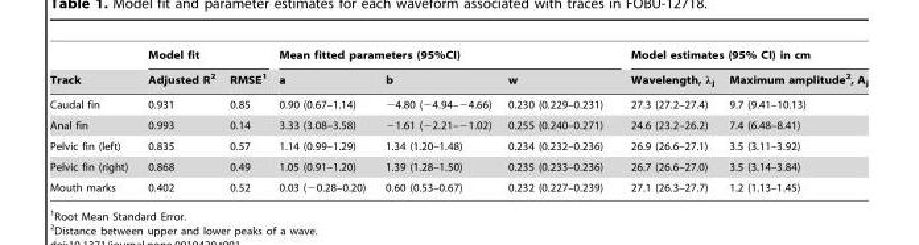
<table><thead><tr><td rowspan="2">Track</td><td colspan="2">Model fit</td><td colspan="3">Mean fitted parameters (95%CI)</td><td colspan="2">Model estimates (95% CI) in cm</td></tr><tr><td>Adjusted R<sup>2</sup></td><td>RMSE<sup>1</sup></td><td>a</td><td>b</td><td>w</td><td>Wavelength, λ<sub>j</sub></td><td>Maximum amplitude<sup>2</sup>, A<sub>j</sub></td></tr></thead><tbody><tr><td>Caudal fin</td><td>0.931</td><td>0.85</td><td>0.90 (0.67–1.14)</td><td>−4.80 (−4.94–−4.66)</td><td>0.230 (0.229–0.231)</td><td>27.3 (27.2–27.4)</td><td>9.7 (9.41–10.13)</td></tr><tr><td>Anal fin</td><td>0.993</td><td>0.14</td><td>3.33 (3.08–3.58)</td><td>−1.61 (−2.21–−1.02)</td><td>0.255 (0.240–0.271)</td><td>24.6 (23.2–26.2)</td><td>7.4 (6.48–8.41)</td></tr><tr><td>Pelvic fin (left)</td><td>0.835</td><td>0.57</td><td>1.14 (0.99–1.29)</td><td>1.34 (1.20–1.48)</td><td>0.234 (0.232–0.236)</td><td>26.9 (26.6–27.1)</td><td>3.5 (3.11–3.92)</td></tr><tr><td>Pelvic fin (right)</td><td>0.868</td><td>0.49</td><td>1.05 (0.91–1.20)</td><td>1.39 (1.28–1.50)</td><td>0.235 (0.233–0.236)</td><td>26.7 (26.6–27.0)</td><td>3.5 (3.14–3.84)</td></tr><tr><td>Mouth marks</td><td>0.402</td><td>0.52</td><td>0.03 (−0.28–0.20)</td><td>0.60 (0.53–0.67)</td><td>0.232 (0.227–0.239)</td><td>27.1 (26.3–27.7)</td><td>1.2 (1.13–1.45)</td></tr></tbody></table>